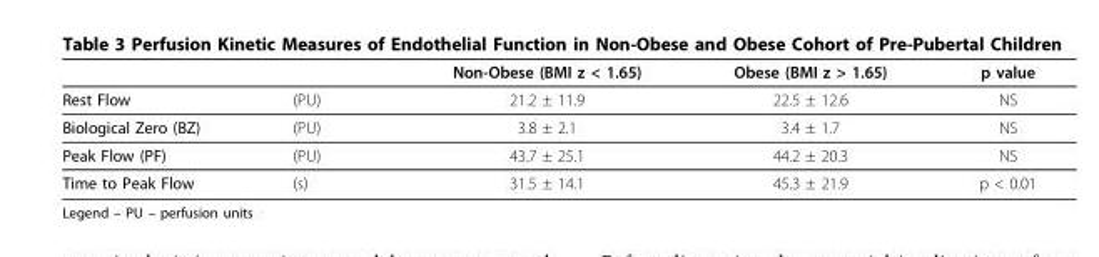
<table><thead><tr><td></td><td></td><td>Non-Obese (BMI z &lt; 1.65)</td><td>Obese (BMI z &gt; 1.65)</td><td>p value</td></tr></thead><tbody><tr><td>Rest Flow</td><td>(PU)</td><td>21.2 ± 11.9</td><td>22.5 ± 12.6</td><td>NS</td></tr><tr><td>Biological Zero (BZ)</td><td>(PU)</td><td>3.8 ± 2.1</td><td>3.4 ± 1.7</td><td>NS</td></tr><tr><td>Peak Flow (PF)</td><td>(PU)</td><td>43.7 ± 25.1</td><td>44.2 ± 20.3</td><td>NS</td></tr><tr><td>Time to Peak Flow</td><td>(s)</td><td>31.5 ± 14.1</td><td>45.3 ± 21.9</td><td>p &lt; 0.01</td></tr></tbody></table>